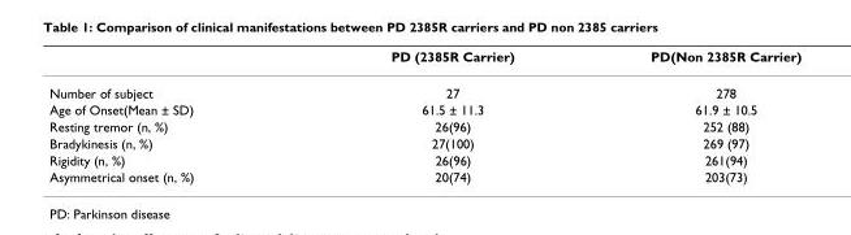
<table><thead><tr><td></td><td>PD (2385R Carrier)</td><td>PD(Non 2385R Carrier)</td></tr></thead><tbody><tr><td>Number of subject</td><td>27</td><td>278</td></tr><tr><td>Age of Onset(Mean ± SD)</td><td>61.5 ± 11.3</td><td>61.9 ± 10.5</td></tr><tr><td>Resting tremor (n, %)</td><td>26(96)</td><td>252 (88)</td></tr><tr><td>Bradykinesis (n, %)</td><td>27(100)</td><td>269 (97)</td></tr><tr><td>Rigidity (n, %)</td><td>26(96)</td><td>261(94)</td></tr><tr><td>Asymmetrical onset (n, %)</td><td>20(74)</td><td>203(73)</td></tr></tbody></table>